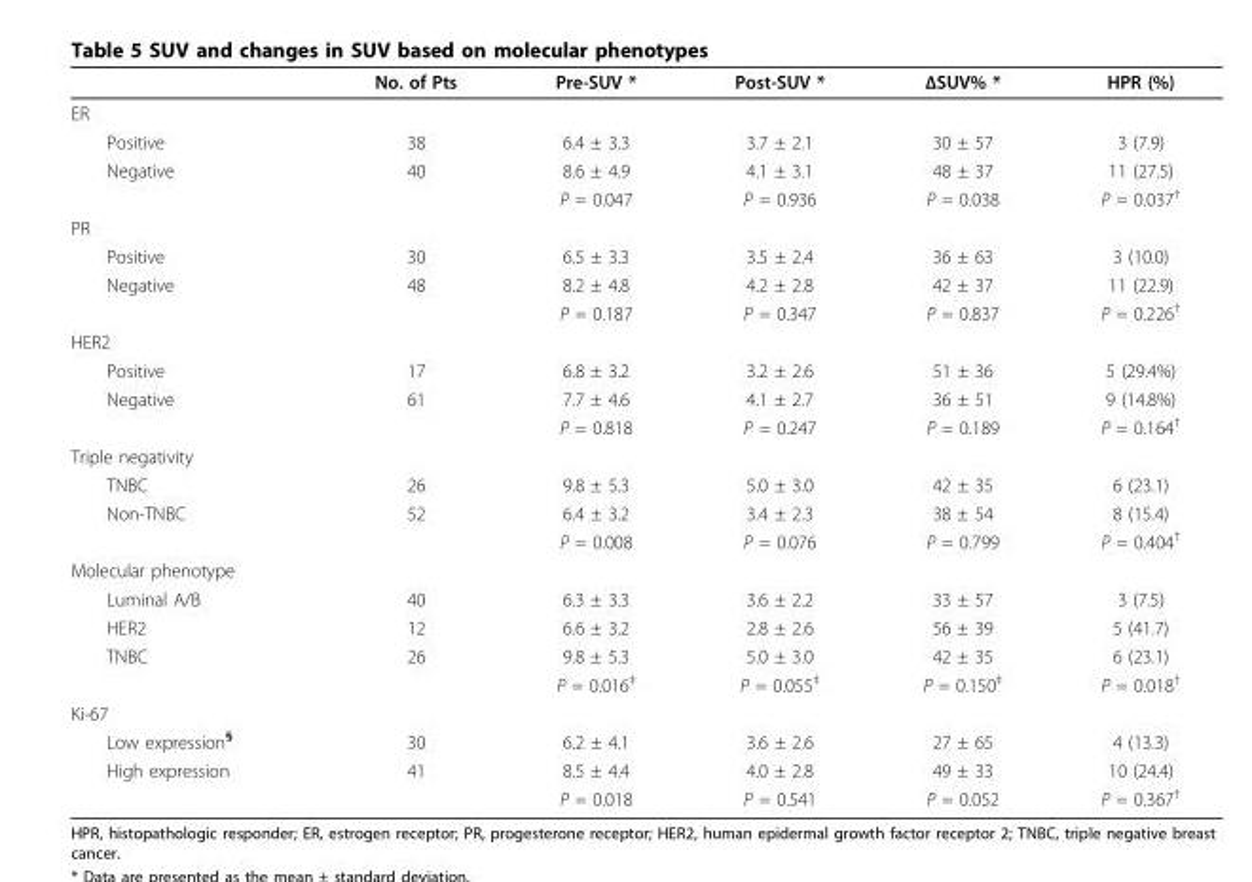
<table><thead><tr><td></td><td>No. of Pts</td><td>Pre-SUV *</td><td>Post-SUV *</td><td>ΔSUV% *</td><td>HPR (%)</td></tr></thead><tbody><tr><td colspan="6">ER</td></tr><tr><td>Positive</td><td>38</td><td>6.4 ± 3.3</td><td>3.7 ± 2.1</td><td>30 ± 57</td><td>3 (7.9)</td></tr><tr><td rowspan="2">Negative</td><td>40</td><td>8.6 ± 4.9</td><td>4.1 ± 3.1</td><td>48 ± 37</td><td>11 (27.5)</td></tr><tr><td></td><td>P = 0.047</td><td>P = 0.936</td><td>P = 0.038</td><td>P = 0.037<sup>†</sup></td></tr><tr><td colspan="6">PR</td></tr><tr><td>Positive</td><td>30</td><td>6.5 ± 3.3</td><td>3.5 ± 2.4</td><td>36 ± 63</td><td>3 (10.0)</td></tr><tr><td rowspan="2">Negative</td><td>48</td><td>8.2 ± 4.8</td><td>4.2 ± 2.8</td><td>42 ± 37</td><td>11 (22.9)</td></tr><tr><td></td><td>P = 0.187</td><td>P = 0.347</td><td>P = 0.837</td><td>P = 0.226<sup>†</sup></td></tr><tr><td colspan="6">HER2</td></tr><tr><td>Positive</td><td>17</td><td>6.8 ± 3.2</td><td>3.2 ± 2.6</td><td>51 ± 36</td><td>5 (29.4%)</td></tr><tr><td rowspan="2">Negative</td><td>61</td><td>7.7 ± 4.6</td><td>4.1 ± 2.7</td><td>36 ± 51</td><td>9 (14.8%)</td></tr><tr><td></td><td>P = 0.818</td><td>P = 0.247</td><td>P = 0.189</td><td>P = 0.164<sup>†</sup></td></tr><tr><td colspan="6">Triple negativity</td></tr><tr><td>TNBC</td><td>26</td><td>9.8 ± 5.3</td><td>5.0 ± 3.0</td><td>42 ± 35</td><td>6 (23.1)</td></tr><tr><td rowspan="2">Non-TNBC</td><td>52</td><td>6.4 ± 3.2</td><td>3.4 ± 2.3</td><td>38 ± 54</td><td>8 (15.4)</td></tr><tr><td></td><td>P = 0.008</td><td>P = 0.076</td><td>P = 0.799</td><td>P = 0.404<sup>†</sup></td></tr><tr><td colspan="6">Molecular phenotype</td></tr><tr><td>Luminal A/B</td><td>40</td><td>6.3 ± 3.3</td><td>3.6 ± 2.2</td><td>33 ± 57</td><td>3 (7.5)</td></tr><tr><td>HER2</td><td>12</td><td>6.6 ± 3.2</td><td>2.8 ± 2.6</td><td>56 ± 39</td><td>5 (41.7)</td></tr><tr><td rowspan="2">TNBC</td><td>26</td><td>9.8 ± 5.3</td><td>5.0 ± 3.0</td><td>42 ± 35</td><td>6 (23.1)</td></tr><tr><td></td><td>P = 0.016<sup>‡</sup></td><td>P = 0.055<sup>‡</sup></td><td>P = 0.150<sup>‡</sup></td><td>P = 0.018<sup>†</sup></td></tr><tr><td colspan="6">Ki-67</td></tr><tr><td>Low expression<sup>§</sup></td><td>30</td><td>6.2 ± 4.1</td><td>3.6 ± 2.6</td><td>27 ± 65</td><td>4 (13.3)</td></tr><tr><td rowspan="2">High expression</td><td>41</td><td>8.5 ± 4.4</td><td>4.0 ± 2.8</td><td>49 ± 33</td><td>10 (24.4)</td></tr><tr><td></td><td>P = 0.018</td><td>P = 0.541</td><td>P = 0.052</td><td>P = 0.367<sup>†</sup></td></tr></tbody></table>